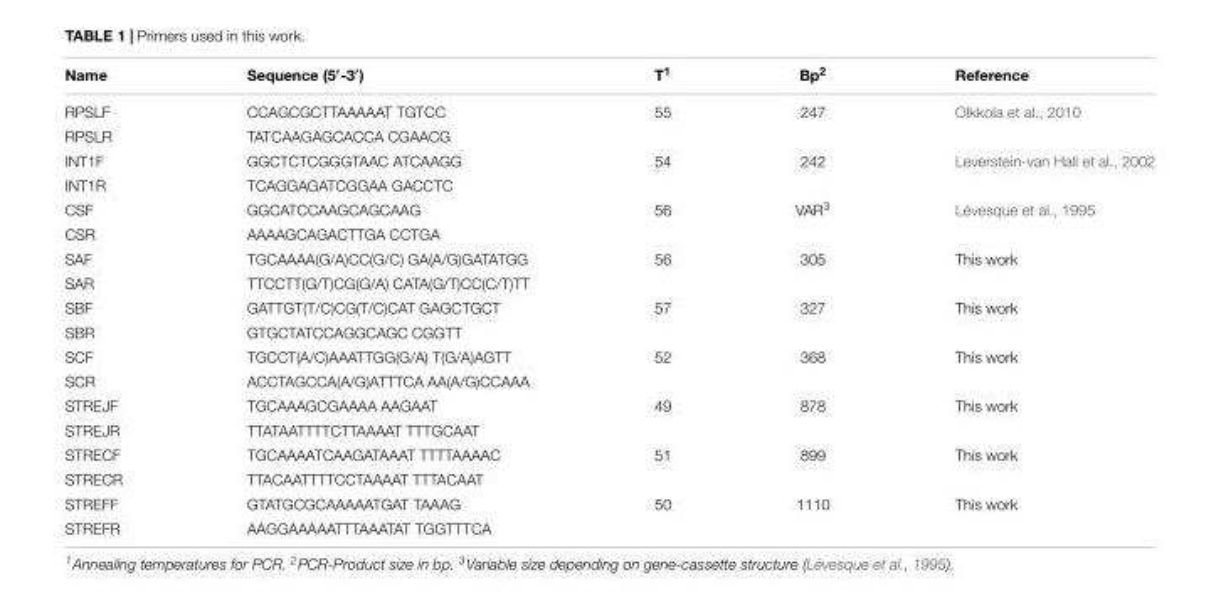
<table><thead><tr><td>Name</td><td>Sequence (5′-3′)</td><td>T<sup>1</sup></td><td>Bp<sup>2</sup></td><td>Reference</td></tr></thead><tbody><tr><td>RPSLF</td><td>CCAGCGCTTAAAAAT TGTCC</td><td>55</td><td>247</td><td>Olkkola et al., 2010</td></tr><tr><td>RPSLR</td><td>TATCAAGAGCACCA CGAACG</td><td></td><td></td><td></td></tr><tr><td>INT1F</td><td>GGCTCTCGGGTAAC ATCAAGG</td><td>54</td><td>242</td><td>Leverstein-van Hall et al., 2002</td></tr><tr><td>INT1R</td><td>TCAGGAGATCGGAA GACCTC</td><td></td><td></td><td></td></tr><tr><td>CSF</td><td>GGCATCCAAGCAGCAAG</td><td>56</td><td>VAR<sup>3</sup></td><td>Lévesque et al., 1995</td></tr><tr><td>CSR</td><td>AAAAGCAGACTTGA CCTGA</td><td></td><td></td><td></td></tr><tr><td>SAF</td><td>TGCAAAA(G/A)CC(G/C) GA(A/G)GATATGG</td><td>56</td><td>305</td><td>This work</td></tr><tr><td>SAR</td><td>TTCCTT(G/T)CG(G/A) CATA(G/T)CC(C/T)TT</td><td></td><td></td><td></td></tr><tr><td>SBF</td><td>GATTGT(T/C)CG(T/C)CAT GAGCTGCT</td><td>57</td><td>327</td><td>This work</td></tr><tr><td>SBR</td><td>GTGCTATCCAGGCAGC CGGTT</td><td></td><td></td><td></td></tr><tr><td>SCF</td><td>TGCCT(A/C)AAATTGG(G/A) T(G/A)AGTT</td><td>52</td><td>368</td><td>This work</td></tr><tr><td>SCR</td><td>ACCTAGCCA(A/G)ATTTCA AA(A/G)CCAAA</td><td></td><td></td><td></td></tr><tr><td>STREJF</td><td>TGCAAAGCGAAAA AAGAAT</td><td>49</td><td>878</td><td>This work</td></tr><tr><td>STREJR</td><td>TTATAATTTTCTTAAAAT TTTGCAAT</td><td></td><td></td><td></td></tr><tr><td>STRECF</td><td>TGCAAAATCAAGATAAAT TTTTAAAAC</td><td>51</td><td>899</td><td>This work</td></tr><tr><td>STRECR</td><td>TTACAATTTTCCTAAAAT TTTACAAT</td><td></td><td></td><td></td></tr><tr><td>STREFF</td><td>GTATGCGCAAAAATGAT TAAAG</td><td>50</td><td>1110</td><td>This work</td></tr><tr><td>STREFR</td><td>AAGGAAAAATTTAAATAT TGGTTTCA</td><td></td><td></td><td></td></tr></tbody></table>